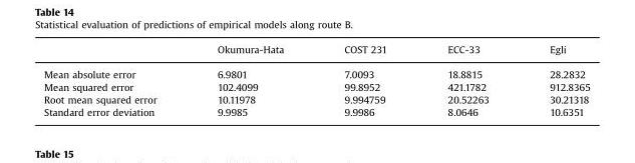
<table><thead><tr><td></td><td>Okumura-Hata</td><td>COST 231</td><td>ECC-33</td><td>Egli</td></tr></thead><tbody><tr><td>Mean absolute error</td><td>6.9801</td><td>7.0093</td><td>18.8815</td><td>28.2832</td></tr><tr><td>Mean squared error</td><td>102.4099</td><td>99.8952</td><td>421.1782</td><td>912.8365</td></tr><tr><td>Root mean squared error</td><td>10.11978</td><td>9.994759</td><td>20.52263</td><td>30.21318</td></tr><tr><td>Standard error deviation</td><td>9.9985</td><td>9.9986</td><td>8.0646</td><td>10.6351</td></tr></tbody></table>